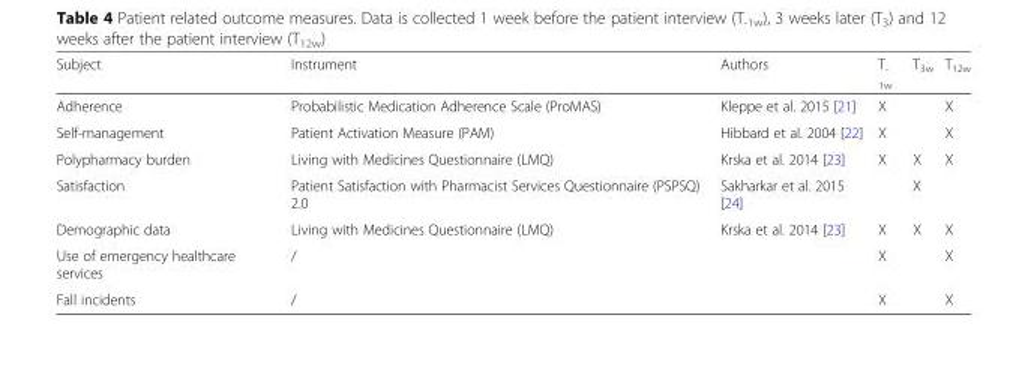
<table><thead><tr><td>Subject</td><td>Instrument</td><td>Authors</td><td>T<sub>- 1w</sub></td><td>T<sub>3w</sub></td><td>T<sub>12w</sub></td></tr></thead><tbody><tr><td>Adherence</td><td>Probabilistic Medication Adherence Scale (ProMAS)</td><td>Kleppe et al. 2015 [21]</td><td>X</td><td></td><td>X</td></tr><tr><td>Self-management</td><td>Patient Activation Measure (PAM)</td><td>Hibbard et al. 2004 [22]</td><td>X</td><td></td><td>X</td></tr><tr><td>Polypharmacy burden</td><td>Living with Medicines Questionnaire (LMQ)</td><td>Krska et al. 2014 [23]</td><td>X</td><td>X</td><td>X</td></tr><tr><td>Satisfaction</td><td>Patient Satisfaction with Pharmacist Services Questionnaire (PSPSQ) 2.0</td><td>Sakharkar et al. 2015 [24]</td><td></td><td>X</td><td></td></tr><tr><td>Demographic data</td><td>Living with Medicines Questionnaire (LMQ)</td><td>Krska et al. 2014 [23]</td><td>X</td><td>X</td><td>X</td></tr><tr><td>Use of emergency healthcare services</td><td>/</td><td></td><td>X</td><td></td><td>X</td></tr><tr><td>Fall incidents</td><td>/</td><td></td><td>X</td><td></td><td>X</td></tr></tbody></table>